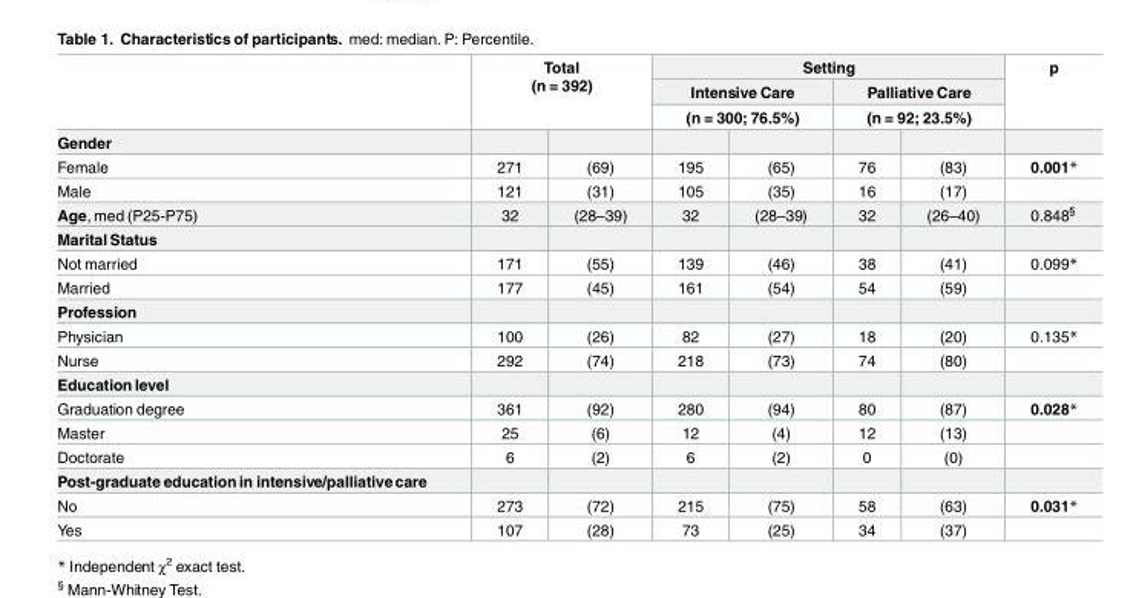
<table><thead><tr><td rowspan="4">Gender</td><td rowspan="3" colspan="2">Total (n = 392)</td><td colspan="4">Setting</td><td rowspan="4">p</td></tr><tr><td rowspan="2" colspan="2">Intensive Care (n = 300; 76.5%)</td><td rowspan="2" colspan="2">Palliative Care (n = 92; 23.5%)</td></tr><tr></tr><tr><td></td><td></td><td></td><td></td><td></td><td></td></tr></thead><tbody><tr><td>Female</td><td>271</td><td>(69)</td><td>195</td><td>(65)</td><td>76</td><td>(83)</td><td>0.001*</td></tr><tr><td>Male</td><td>121</td><td>(31)</td><td>105</td><td>(35)</td><td>16</td><td>(17)</td><td></td></tr><tr><td>Age, med (P25-P75)</td><td>32</td><td>(28–39)</td><td>32</td><td>(28–39)</td><td>32</td><td>(26–40)</td><td>0.848<sup>§</sup></td></tr><tr><td colspan="8">Marital Status</td></tr><tr><td>Not married</td><td>171</td><td>(55)</td><td>139</td><td>(46)</td><td>38</td><td>(41)</td><td>0.099*</td></tr><tr><td>Married</td><td>177</td><td>(45)</td><td>161</td><td>(54)</td><td>54</td><td>(59)</td><td></td></tr><tr><td colspan="8">Profession</td></tr><tr><td>Physician</td><td>100</td><td>(26)</td><td>82</td><td>(27)</td><td>18</td><td>(20)</td><td>0.135*</td></tr><tr><td>Nurse</td><td>292</td><td>(74)</td><td>218</td><td>(73)</td><td>74</td><td>(80)</td><td></td></tr><tr><td colspan="8">Education level</td></tr><tr><td>Graduation degree</td><td>361</td><td>(92)</td><td>280</td><td>(94)</td><td>80</td><td>(87)</td><td>0.028*</td></tr><tr><td>Master</td><td>25</td><td>(6)</td><td>12</td><td>(4)</td><td>12</td><td>(13)</td><td></td></tr><tr><td>Doctorate</td><td>6</td><td>(2)</td><td>6</td><td>(2)</td><td>0</td><td>(0)</td><td></td></tr><tr><td colspan="8">Post-graduate education in intensive/palliativecare</td></tr><tr><td>No</td><td>273</td><td>(72)</td><td>215</td><td>(75)</td><td>58</td><td>(63)</td><td>0.031*</td></tr><tr><td>Yes</td><td>107</td><td>(28)</td><td>73</td><td>(25)</td><td>34</td><td>(37)</td><td></td></tr></tbody></table>